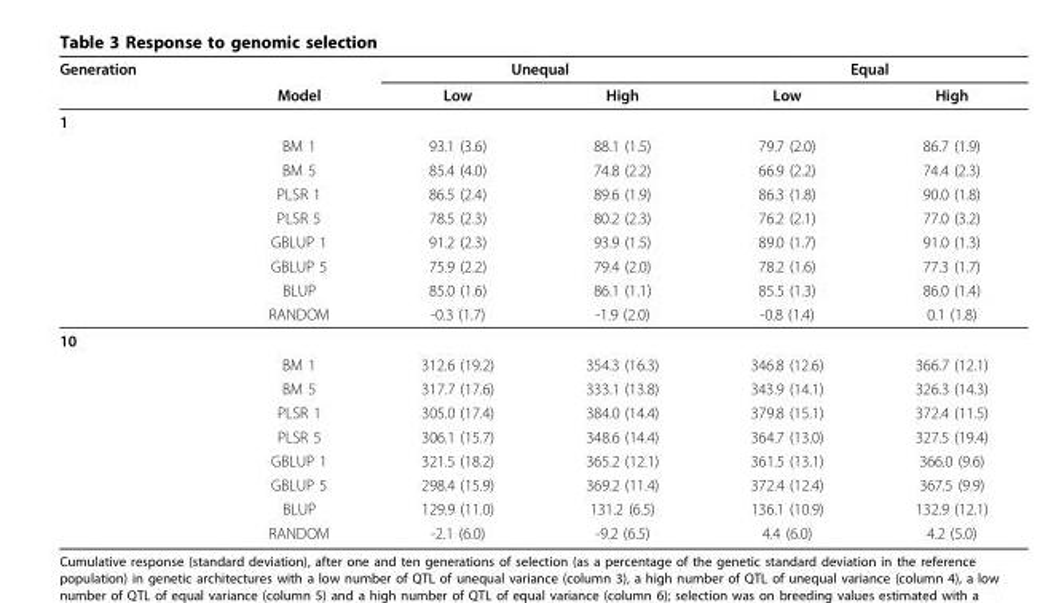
<table><thead><tr><td rowspan="2">Generation</td><td rowspan="2">Model</td><td colspan="2">Unequal</td><td colspan="2">Equal</td></tr><tr><td>Low</td><td>High</td><td>Low</td><td>High</td></tr></thead><tbody><tr><td colspan="6">1</td></tr><tr><td></td><td>BM 1</td><td>93.1 (3.6)</td><td>88.1 (1.5)</td><td>79.7 (2.0)</td><td>86.7 (1.9)</td></tr><tr><td></td><td>BM 5</td><td>85.4 (4.0)</td><td>74.8 (2.2)</td><td>66.9 (2.2)</td><td>74.4 (2.3)</td></tr><tr><td></td><td>PLSR 1</td><td>86.5 (2.4)</td><td>89.6 (1.9)</td><td>86.3 (1.8)</td><td>90.0 (1.8)</td></tr><tr><td></td><td>PLSR 5</td><td>78.5 (2.3)</td><td>80.2 (2.3)</td><td>76.2 (2.1)</td><td>77.0 (3.2)</td></tr><tr><td></td><td>GBLUP 1</td><td>91.2 (2.3)</td><td>93.9 (1.5)</td><td>89.0 (1.7)</td><td>91.0 (1.3)</td></tr><tr><td></td><td>GBLUP 5</td><td>75.9 (2.2)</td><td>79.4 (2.0)</td><td>78.2 (1.6)</td><td>77.3 (1.7)</td></tr><tr><td></td><td>BLUP</td><td>85.0 (1.6)</td><td>86.1 (1.1)</td><td>85.5 (1.3)</td><td>86.0 (1.4)</td></tr><tr><td></td><td>RANDOM</td><td>-0.3 (1.7)</td><td>-1.9 (2.0)</td><td>-0.8 (1.4)</td><td>0.1 (1.8)</td></tr><tr><td colspan="6">10</td></tr><tr><td></td><td>BM 1</td><td>312.6 (19.2)</td><td>354.3 (16.3)</td><td>346.8 (12.6)</td><td>366.7 (12.1)</td></tr><tr><td></td><td>BM 5</td><td>317.7 (17.6)</td><td>333.1 (13.8)</td><td>343.9 (14.1)</td><td>326.3 (14.3)</td></tr><tr><td></td><td>PLSR 1</td><td>305.0 (17.4)</td><td>384.0 (14.4)</td><td>379.8 (15.1)</td><td>372.4 (11.5)</td></tr><tr><td></td><td>PLSR 5</td><td>306.1 (15.7)</td><td>348.6 (14.4)</td><td>364.7 (13.0)</td><td>327.5 (19.4)</td></tr><tr><td></td><td>GBLUP 1</td><td>321.5 (18.2)</td><td>365.2 (12.1)</td><td>361.5 (13.1)</td><td>366.0 (9.6)</td></tr><tr><td></td><td>GBLUP 5</td><td>298.4 (15.9)</td><td>369.2 (11.4)</td><td>372.4 (12.4)</td><td>367.5 (9.9)</td></tr><tr><td></td><td>BLUP</td><td>129.9 (11.0)</td><td>131.2 (6.5)</td><td>136.1 (10.9)</td><td>132.9 (12.1)</td></tr><tr><td></td><td>RANDOM</td><td>-2.1 (6.0)</td><td>-9.2 (6.5)</td><td>4.4 (6.0)</td><td>4.2 (5.0)</td></tr></tbody></table>